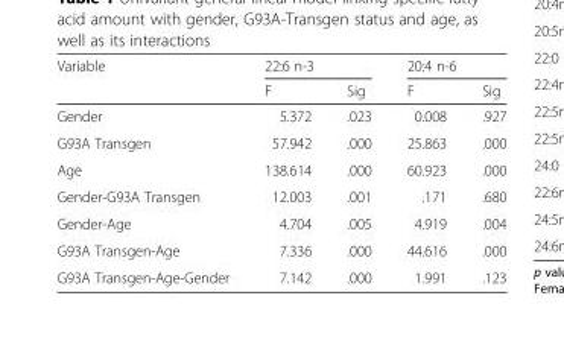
<table><thead><tr><td rowspan="2">Variable</td><td colspan="2">22:6 n-3</td><td colspan="2">20:4 n-6</td></tr><tr><td>F</td><td>Sig</td><td>F</td><td>Sig</td></tr></thead><tbody><tr><td>Gender</td><td>5.372</td><td>.023</td><td>0.008</td><td>.927</td></tr><tr><td>G93A Transgen</td><td>57.942</td><td>.000</td><td>25.863</td><td>.000</td></tr><tr><td>Age</td><td>138.614</td><td>.000</td><td>60.923</td><td>.000</td></tr><tr><td>Gender-G93A Transgen</td><td>12.003</td><td>.001</td><td>.171</td><td>.680</td></tr><tr><td>Gender-Age</td><td>4.704</td><td>.005</td><td>4.919</td><td>.004</td></tr><tr><td>G93A Transgen-Age</td><td>7.336</td><td>.000</td><td>44.616</td><td>.000</td></tr><tr><td>G93A Transgen-Age-Gender</td><td>7.142</td><td>.000</td><td>1.991</td><td>.123</td></tr></tbody></table>